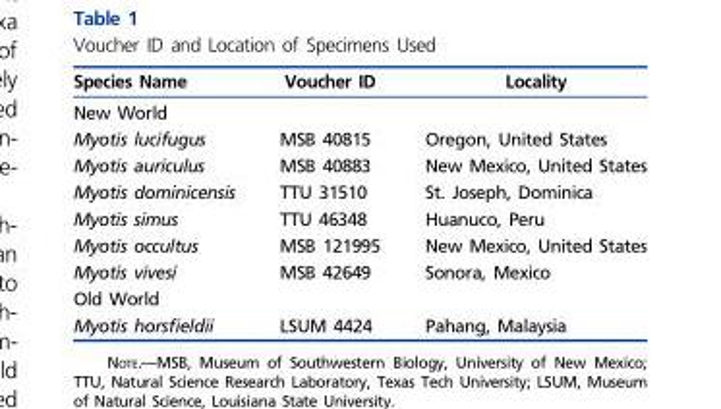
<table><thead><tr><td>Species Name</td><td>Voucher ID</td><td>Locality</td></tr></thead><tbody><tr><td colspan="3">New World</td></tr><tr><td>Myotis lucifugus</td><td>MSB 40815</td><td>Oregon, United States</td></tr><tr><td>Myotis auriculus</td><td>MSB 40883</td><td>New Mexico, United States</td></tr><tr><td>Myotis dominicensis</td><td>TTU 31510</td><td>St. Joseph, Dominica</td></tr><tr><td>Myotis simus</td><td>TTU 46348</td><td>Huanuco, Peru</td></tr><tr><td>Myotis occultus</td><td>MSB 121995</td><td>New Mexico, United States</td></tr><tr><td>Myotis vivesi</td><td>MSB 42649</td><td>Sonora, Mexico</td></tr><tr><td colspan="3">Old World</td></tr><tr><td>Myotis horsfieldii</td><td>LSUM 4424</td><td>Pahang, Malaysia</td></tr></tbody></table>